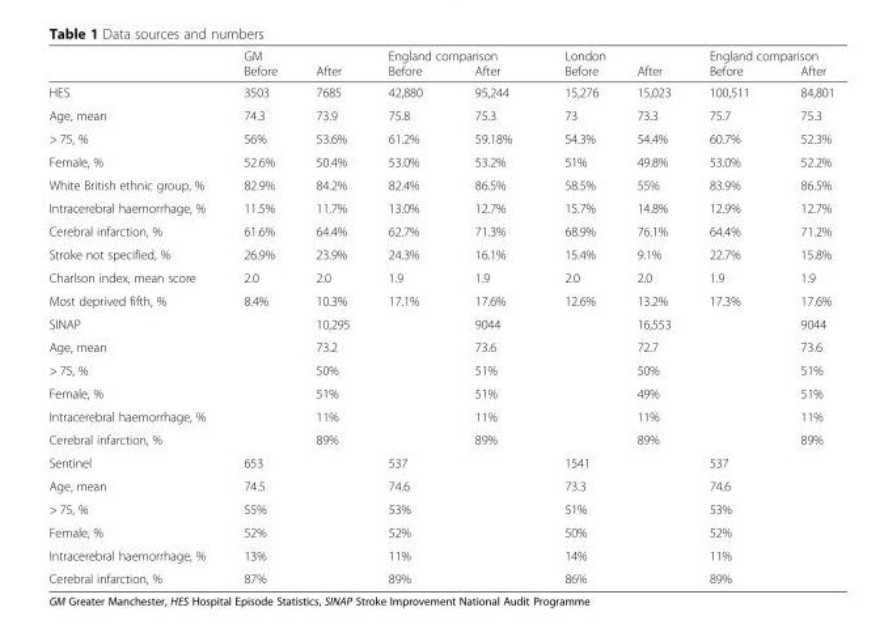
<table><thead><tr><td rowspan="2"></td><td colspan="2">GM</td><td colspan="2">England comparison</td><td colspan="2">London</td><td colspan="2">England comparison</td></tr><tr><td>Before</td><td>After</td><td>Before</td><td>After</td><td>Before</td><td>After</td><td>Before</td><td>After</td></tr></thead><tbody><tr><td>HES</td><td>3503</td><td>7685</td><td>42,880</td><td>95,244</td><td>15,276</td><td>15,023</td><td>100,511</td><td>84,801</td></tr><tr><td>Age, mean</td><td>74.3</td><td>73.9</td><td>75.8</td><td>75.3</td><td>73</td><td>73.3</td><td>75.7</td><td>75.3</td></tr><tr><td>&gt; 75, %</td><td>56%</td><td>53.6%</td><td>61.2%</td><td>59.18%</td><td>54.3%</td><td>54.4%</td><td>60.7%</td><td>52.3%</td></tr><tr><td>Female, %</td><td>52.6%</td><td>50.4%</td><td>53.0%</td><td>53.2%</td><td>51%</td><td>49.8%</td><td>53.0%</td><td>52.2%</td></tr><tr><td>White British ethnic group, %</td><td>82.9%</td><td>84.2%</td><td>82.4%</td><td>86.5%</td><td>58.5%</td><td>55%</td><td>83.9%</td><td>86.5%</td></tr><tr><td>Intracerebral haemorrhage, %</td><td>11.5%</td><td>11.7%</td><td>13.0%</td><td>12.7%</td><td>15.7%</td><td>14.8%</td><td>12.9%</td><td>12.7%</td></tr><tr><td>Cerebral infarction, %</td><td>61.6%</td><td>64.4%</td><td>62.7%</td><td>71.3%</td><td>68.9%</td><td>76.1%</td><td>64.4%</td><td>71.2%</td></tr><tr><td>Stroke not specified, %</td><td>26.9%</td><td>23.9%</td><td>24.3%</td><td>16.1%</td><td>15.4%</td><td>9.1%</td><td>22.7%</td><td>15.8%</td></tr><tr><td>Charlson index, mean score</td><td>2.0</td><td>2.0</td><td>1.9</td><td>1.9</td><td>2.0</td><td>2.0</td><td>1.9</td><td>1.9</td></tr><tr><td>Most deprived fifth, %</td><td>8.4%</td><td>10.3%</td><td>17.1%</td><td>17.6%</td><td>12.6%</td><td>13.2%</td><td>17.3%</td><td>17.6%</td></tr><tr><td>SINAP</td><td></td><td>10,295</td><td></td><td>9044</td><td></td><td>16,553</td><td></td><td>9044</td></tr><tr><td>Age, mean</td><td></td><td>73.2</td><td></td><td>73.6</td><td></td><td>72.7</td><td></td><td>73.6</td></tr><tr><td>&gt; 75, %</td><td></td><td>50%</td><td></td><td>51%</td><td></td><td>50%</td><td></td><td>51%</td></tr><tr><td>Female, %</td><td></td><td>51%</td><td></td><td>51%</td><td></td><td>49%</td><td></td><td>51%</td></tr><tr><td>Intracerebral haemorrhage, %</td><td></td><td>11%</td><td></td><td>11%</td><td></td><td>11%</td><td></td><td>11%</td></tr><tr><td>Cerebral infarction, %</td><td></td><td>89%</td><td></td><td>89%</td><td></td><td>89%</td><td></td><td>89%</td></tr><tr><td>Sentinel</td><td>653</td><td></td><td>537</td><td></td><td>1541</td><td></td><td>537</td><td></td></tr><tr><td>Age, mean</td><td>74.5</td><td></td><td>74.6</td><td></td><td>73.3</td><td></td><td>74.6</td><td></td></tr><tr><td>&gt; 75, %</td><td>55%</td><td></td><td>53%</td><td></td><td>51%</td><td></td><td>53%</td><td></td></tr><tr><td>Female, %</td><td>52%</td><td></td><td>52%</td><td></td><td>50%</td><td></td><td>52%</td><td></td></tr><tr><td>Intracerebral haemorrhage, %</td><td>13%</td><td></td><td>11%</td><td></td><td>14%</td><td></td><td>11%</td><td></td></tr><tr><td>Cerebral infarction, %</td><td>87%</td><td></td><td>89%</td><td></td><td>86%</td><td></td><td>89%</td><td></td></tr></tbody></table>